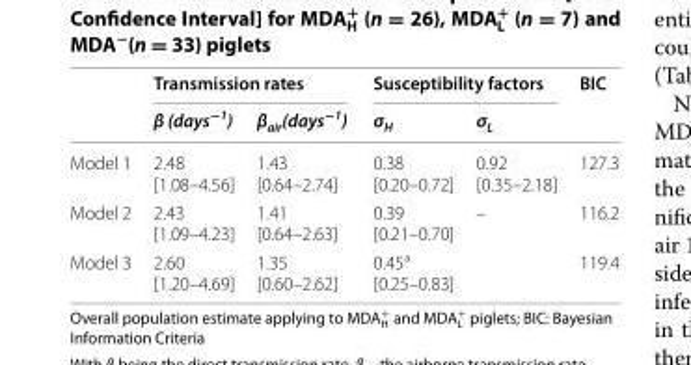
<table><thead><tr><td rowspan="2"></td><td colspan="2">Transmission rates</td><td colspan="2">Susceptibility factors</td><td rowspan="2">BIC</td></tr><tr><td>β (days<sup>−1</sup>)</td><td>β<sub>air</sub>(days<sup>−1</sup>)</td><td>σ<sub>H</sub></td><td>σ<sub>L</sub></td></tr></thead><tbody><tr><td>Model 1</td><td>2.48 [1.08–4.56]</td><td>1.43 [0.64–2.74]</td><td>0.38 [0.20–0.72]</td><td>0.92 [0.35–2.18]</td><td>127.3</td></tr><tr><td>Model 2</td><td>2.43 [1.09–4.23]</td><td>1.41 [0.64–2.63]</td><td>0.39 [0.21–0.70]</td><td>–</td><td>116.2</td></tr><tr><td>Model 3</td><td>2.60 [1.20–4.69]</td><td>1.35 [0.60–2.62]</td><td colspan="2">0.45<sup>a</sup> [0.25–0.83]</td><td>119.4</td></tr></tbody></table>